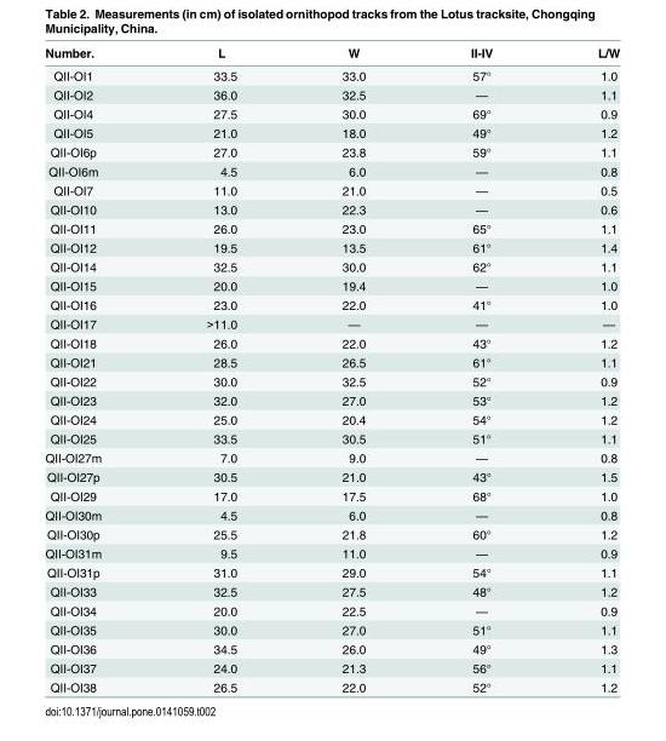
<table><thead><tr><td>Number.</td><td>L</td><td>W</td><td>II-IV</td><td>L/W</td></tr></thead><tbody><tr><td>QII-OI1</td><td>33.5</td><td>33.0</td><td>57°</td><td>1.0</td></tr><tr><td>QII-OI2</td><td>36.0</td><td>32.5</td><td>—</td><td>1.1</td></tr><tr><td>QII-OI4</td><td>27.5</td><td>30.0</td><td>69°</td><td>0.9</td></tr><tr><td>QII-OI5</td><td>21.0</td><td>18.0</td><td>49°</td><td>1.2</td></tr><tr><td>QII-OI6p</td><td>27.0</td><td>23.8</td><td>59°</td><td>1.1</td></tr><tr><td>QII-OI6m</td><td>4.5</td><td>6.0</td><td>—</td><td>0.8</td></tr><tr><td>QII-OI7</td><td>11.0</td><td>21.0</td><td>—</td><td>0.5</td></tr><tr><td>QII-OI10</td><td>13.0</td><td>22.3</td><td>—</td><td>0.6</td></tr><tr><td>QII-OI11</td><td>26.0</td><td>23.0</td><td>65°</td><td>1.1</td></tr><tr><td>QII-OI12</td><td>19.5</td><td>13.5</td><td>61°</td><td>1.4</td></tr><tr><td>QII-OI14</td><td>32.5</td><td>30.0</td><td>62°</td><td>1.1</td></tr><tr><td>QII-OI15</td><td>20.0</td><td>19.4</td><td>—</td><td>1.0</td></tr><tr><td>QII-OI16</td><td>23.0</td><td>22.0</td><td>41°</td><td>1.0</td></tr><tr><td>QII-OI17</td><td>&gt;11.0</td><td>—</td><td>—</td><td>—</td></tr><tr><td>QII-OI18</td><td>26.0</td><td>22.0</td><td>43°</td><td>1.2</td></tr><tr><td>QII-OI21</td><td>28.5</td><td>26.5</td><td>61°</td><td>1.1</td></tr><tr><td>QII-OI22</td><td>30.0</td><td>32.5</td><td>52°</td><td>0.9</td></tr><tr><td>QII-OI23</td><td>32.0</td><td>27.0</td><td>53°</td><td>1.2</td></tr><tr><td>QII-OI24</td><td>25.0</td><td>20.4</td><td>54°</td><td>1.2</td></tr><tr><td>QII-OI25</td><td>33.5</td><td>30.5</td><td>51°</td><td>1.1</td></tr><tr><td>QII-OI27m</td><td>7.0</td><td>9.0</td><td>—</td><td>0.8</td></tr><tr><td>QII-OI27p</td><td>30.5</td><td>21.0</td><td>43°</td><td>1.5</td></tr><tr><td>QII-OI29</td><td>17.0</td><td>17.5</td><td>68°</td><td>1.0</td></tr><tr><td>QII-OI30m</td><td>4.5</td><td>6.0</td><td>—</td><td>0.8</td></tr><tr><td>QII-OI30p</td><td>25.5</td><td>21.8</td><td>60°</td><td>1.2</td></tr><tr><td>QII-OI31m</td><td>9.5</td><td>11.0</td><td>—</td><td>0.9</td></tr><tr><td>QII-OI31p</td><td>31.0</td><td>29.0</td><td>54°</td><td>1.1</td></tr><tr><td>QII-OI33</td><td>32.5</td><td>27.5</td><td>48°</td><td>1.2</td></tr><tr><td>QII-OI34</td><td>20.0</td><td>22.5</td><td>—</td><td>0.9</td></tr><tr><td>QII-OI35</td><td>30.0</td><td>27.0</td><td>51°</td><td>1.1</td></tr><tr><td>QII-OI36</td><td>34.5</td><td>26.0</td><td>49°</td><td>1.3</td></tr><tr><td>QII-OI37</td><td>24.0</td><td>21.3</td><td>56°</td><td>1.1</td></tr><tr><td>QII-OI38</td><td>26.5</td><td>22.0</td><td>52°</td><td>1.2</td></tr></tbody></table>